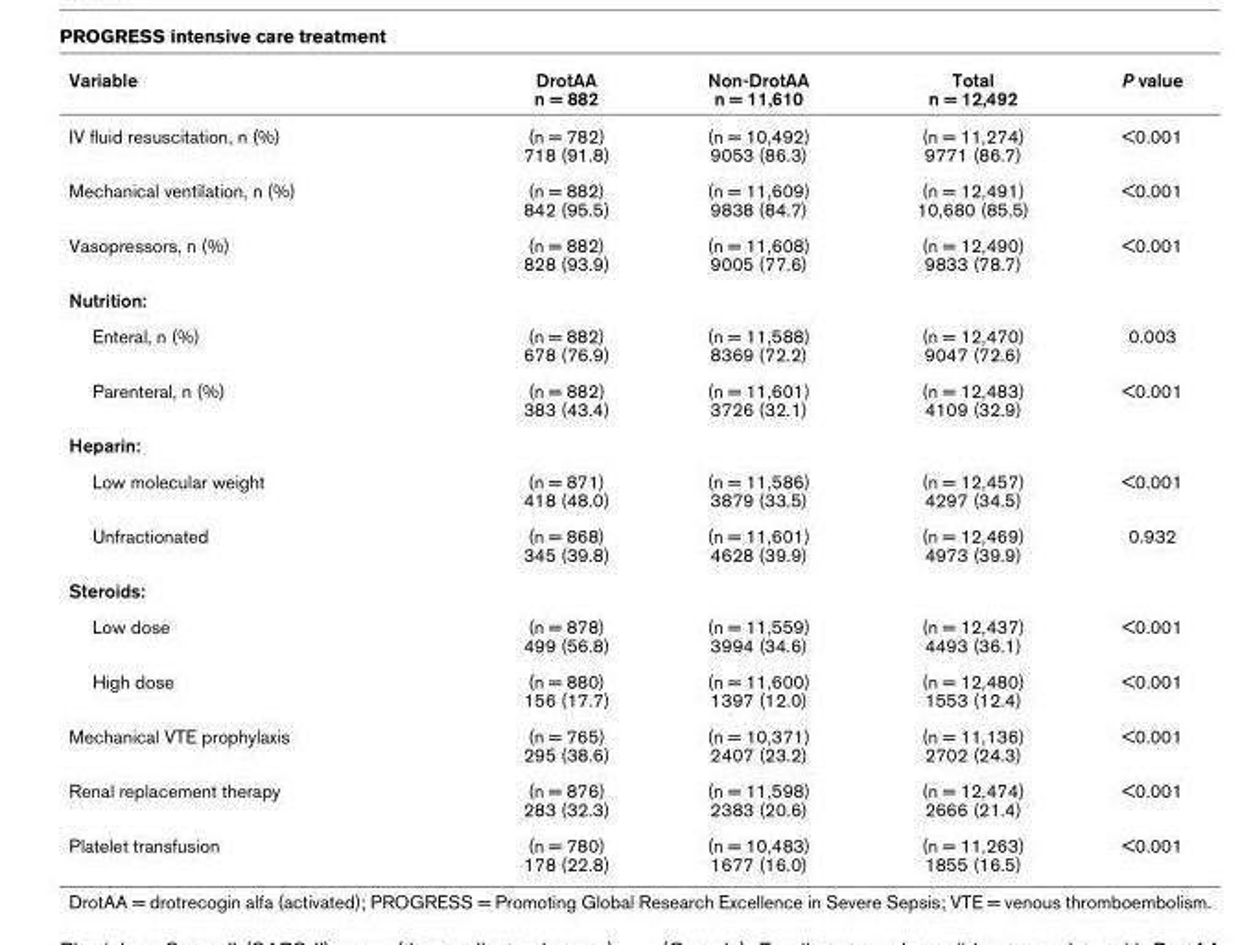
<table><thead><tr><td>Variable</td><td>DrotAA n = 882</td><td>Non-DrotAA n = 11,610</td><td>Total n = 12,492</td><td>P value</td></tr></thead><tbody><tr><td>IV fluid resuscitation, n (%)</td><td>(n = 782) 718 (91.8)</td><td>(n = 10,492) 9053 (86.3)</td><td>(n = 11,274) 9771 (86.7)</td><td>&lt;0.001</td></tr><tr><td>Mechanical ventilation, n (%)</td><td>(n = 882) 842 (95.5)</td><td>(n = 11,609) 9838 (84.7)</td><td>(n = 12,491) 10,680 (85.5)</td><td>&lt;0.001</td></tr><tr><td>Vasopressors, n (%)</td><td>(n = 882) 828 (93.9)</td><td>(n = 11,608) 9005 (77.6)</td><td>(n = 12,490) 9833 (78.7)</td><td>&lt;0.001</td></tr><tr><td colspan="5">Nutrition:</td></tr><tr><td>Enteral, n (%)</td><td>(n = 882) 678 (76.9)</td><td>(n = 11,588) 8369 (72.2)</td><td>(n = 12,470) 9047 (72.6)</td><td>0.003</td></tr><tr><td>Parenteral, n (%)</td><td>(n = 882) 383 (43.4)</td><td>(n = 11,601) 3726 (32.1)</td><td>(n = 12,483) 4109 (32.9)</td><td>&lt;0.001</td></tr><tr><td colspan="5">Heparin:</td></tr><tr><td>Low molecular weight</td><td>(n = 871) 418 (48.0)</td><td>(n = 11,586) 3879 (33.5)</td><td>(n = 12,457) 4297 (34.5)</td><td>&lt;0.001</td></tr><tr><td>Unfractionated</td><td>(n = 868) 345 (39.8)</td><td>(n = 11,601) 4628 (39.9)</td><td>(n = 12,469) 4973 (39.9)</td><td>0.932</td></tr><tr><td colspan="5">Steroids:</td></tr><tr><td>Low dose</td><td>(n = 878) 499 (56.8)</td><td>(n = 11,559) 3994 (34.6)</td><td>(n = 12,437) 4493 (36.1)</td><td>&lt;0.001</td></tr><tr><td>High dose</td><td>(n = 880) 156 (17.7)</td><td>(n = 11,600) 1397 (12.0)</td><td>(n = 12,480) 1553 (12.4)</td><td>&lt;0.001</td></tr><tr><td>Mechanical VTE prophylaxis</td><td>(n = 765) 295 (38.6)</td><td>(n = 10,371) 2407 (23.2)</td><td>(n = 11,136) 2702 (24.3)</td><td>&lt;0.001</td></tr><tr><td>Renal replacement therapy</td><td>(n = 876) 283 (32.3)</td><td>(n = 11,598) 2383 (20.6)</td><td>(n = 12,474) 2666 (21.4)</td><td>&lt;0.001</td></tr><tr><td>Platelet transfusion</td><td>(n = 780) 178 (22.8)</td><td>(n = 10,483) 1677 (16.0)</td><td>(n = 11,263) 1855 (16.5)</td><td>&lt;0.001</td></tr></tbody></table>